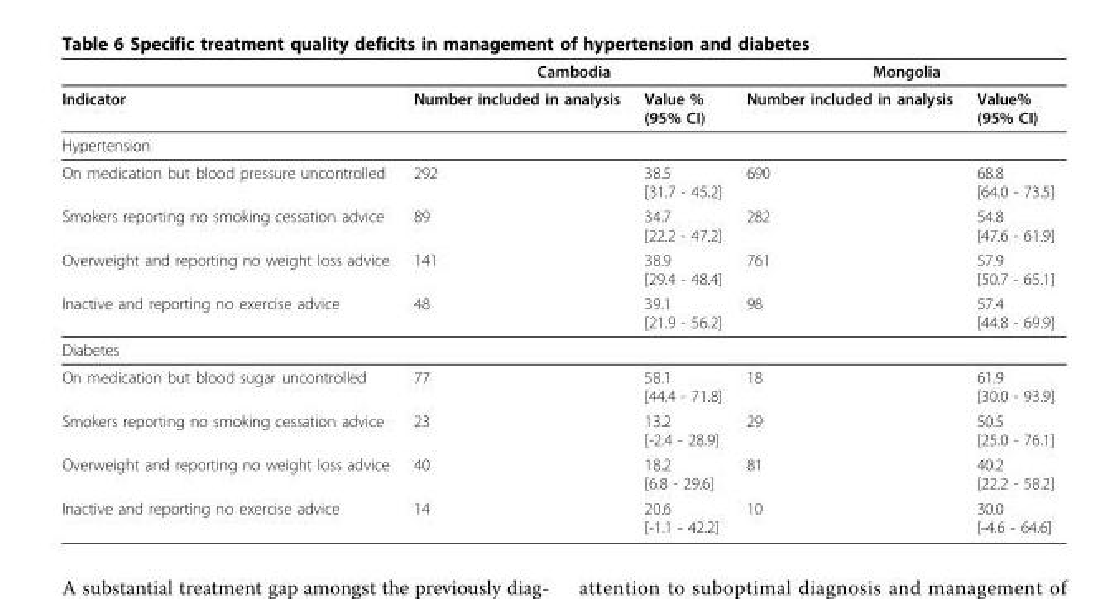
<table><thead><tr><td rowspan="2">Indicator</td><td colspan="2">Cambodia</td><td colspan="2">Mongolia</td></tr><tr><td>Number included in analysis</td><td>Value % (95% CI)</td><td>Number included in analysis</td><td>Value% (95% CI)</td></tr></thead><tbody><tr><td colspan="5">Hypertension</td></tr><tr><td>On medication but blood pressure uncontrolled</td><td>292</td><td>38.5 [31.7 - 45.2]</td><td>690</td><td>68.8 [64.0 - 73.5]</td></tr><tr><td>Smokers reporting no smoking cessation advice</td><td>89</td><td>34.7 [22.2 - 47.2]</td><td>282</td><td>54.8 [47.6 - 61.9]</td></tr><tr><td>Overweight and reporting no weight loss advice</td><td>141</td><td>38.9 [29.4 - 48.4]</td><td>761</td><td>57.9 [50.7 - 65.1]</td></tr><tr><td>Inactive and reporting no exercise advice</td><td>48</td><td>39.1 [21.9 - 56.2]</td><td>98</td><td>57.4 [44.8 - 69.9]</td></tr><tr><td colspan="5">Diabetes</td></tr><tr><td>On medication but blood sugar uncontrolled</td><td>77</td><td>58.1 [44.4 - 71.8]</td><td>18</td><td>61.9 [30.0 - 93.9]</td></tr><tr><td>Smokers reporting no smoking cessation advice</td><td>23</td><td>13.2 [-2.4 - 28.9]</td><td>29</td><td>50.5 [25.0 - 76.1]</td></tr><tr><td>Overweight and reporting no weight loss advice</td><td>40</td><td>18.2 [6.8 - 29.6]</td><td>81</td><td>40.2 [22.2 - 58.2]</td></tr><tr><td>Inactive and reporting no exercise advice</td><td>14</td><td>20.6 [-1.1 - 42.2]</td><td>10</td><td>30.0 [-4.6 - 64.6]</td></tr></tbody></table>